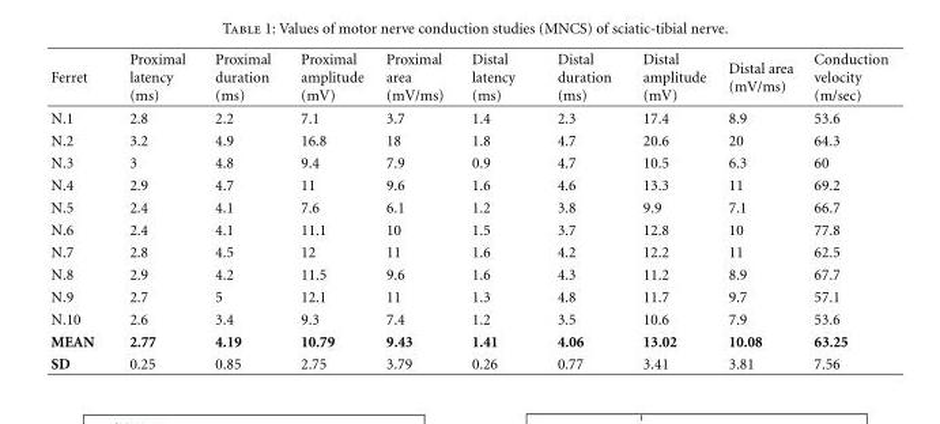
<table><thead><tr><td>Ferret</td><td>Proximal latency (ms)</td><td>Proximal duration (ms)</td><td>Proximal amplitude (mV)</td><td>Proximal area (mV/ms)</td><td>Distal latency (ms)</td><td>Distal duration (ms)</td><td>Distal amplitude (mV)</td><td>Distal area (mV/ms)</td><td>Conduction velocity (m/sec)</td></tr></thead><tbody><tr><td>N.1</td><td>2.8</td><td>2.2</td><td>7.1</td><td>3.7</td><td>1.4</td><td>2.3</td><td>17.4</td><td>8.9</td><td>53.6</td></tr><tr><td>N.2</td><td>3.2</td><td>4.9</td><td>16.8</td><td>18</td><td>1.8</td><td>4.7</td><td>20.6</td><td>20</td><td>64.3</td></tr><tr><td>N.3</td><td>3</td><td>4.8</td><td>9.4</td><td>7.9</td><td>0.9</td><td>4.7</td><td>10.5</td><td>6.3</td><td>60</td></tr><tr><td>N.4</td><td>2.9</td><td>4.7</td><td>11</td><td>9.6</td><td>1.6</td><td>4.6</td><td>13.3</td><td>11</td><td>69.2</td></tr><tr><td>N.5</td><td>2.4</td><td>4.1</td><td>7.6</td><td>6.1</td><td>1.2</td><td>3.8</td><td>9.9</td><td>7.1</td><td>66.7</td></tr><tr><td>N.6</td><td>2.4</td><td>4.1</td><td>11.1</td><td>10</td><td>1.5</td><td>3.7</td><td>12.8</td><td>10</td><td>77.8</td></tr><tr><td>N.7</td><td>2.8</td><td>4.5</td><td>12</td><td>11</td><td>1.6</td><td>4.2</td><td>12.2</td><td>11</td><td>62.5</td></tr><tr><td>N.8</td><td>2.9</td><td>4.2</td><td>11.5</td><td>9.6</td><td>1.6</td><td>4.3</td><td>11.2</td><td>8.9</td><td>67.7</td></tr><tr><td>N.9</td><td>2.7</td><td>5</td><td>12.1</td><td>11</td><td>1.3</td><td>4.8</td><td>11.7</td><td>9.7</td><td>57.1</td></tr><tr><td>N.10</td><td>2.6</td><td>3.4</td><td>9.3</td><td>7.4</td><td>1.2</td><td>3.5</td><td>10.6</td><td>7.9</td><td>53.6</td></tr><tr><td>MEAN</td><td>2.77</td><td>4.19</td><td>10.79</td><td>9.43</td><td>1.41</td><td>4.06</td><td>13.02</td><td>10.08</td><td>63.25</td></tr><tr><td>SD</td><td>0.25</td><td>0.85</td><td>2.75</td><td>3.79</td><td>0.26</td><td>0.77</td><td>3.41</td><td>3.81</td><td>7.56</td></tr></tbody></table>